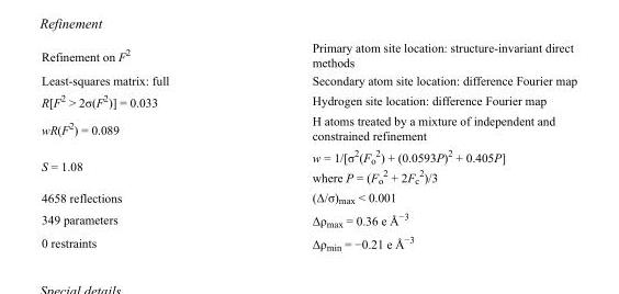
<table><tbody><tr><td>Refinement on F<sup>2</sup></td><td>Primary atom site location: structure-invariant direct methods</td></tr><tr><td>Least-squares matrix: full</td><td>Secondary atom site location: difference Fourier map</td></tr><tr><td>R[F<sup>2</sup> &gt; 2σ(F<sup>2</sup>)] = 0.033</td><td>Hydrogen site location: difference Fourier map</td></tr><tr><td>wR(F<sup>2</sup>) = 0.089</td><td>H atoms treated by a mixture of independent and constrained refinement</td></tr><tr><td>S = 1.08</td><td>w = 1/[σ<sup>2</sup>(F<sub>o</sub> <sup>2</sup>) + (0.0593P)<sup>2</sup> + 0.405P] where P = (F<sub>o</sub> <sup>2</sup> + 2F<sub>c</sub> <sup>2</sup>)/3</td></tr><tr><td>4658 reflections</td><td>(Δ/σ)<sub>max</sub> &lt; 0.001</td></tr><tr><td>349 parameters</td><td>Δρ<sub>max</sub> = 0.36 e Å<sup>−3</sup></td></tr><tr><td>0 restraints</td><td>Δρ<sub>min</sub> = −0.21 e Å<sup>−3</sup></td></tr></tbody></table>